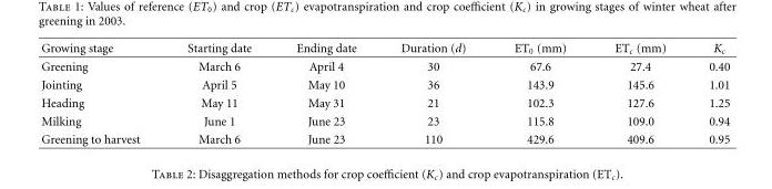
<table><thead><tr><td>Growing stage</td><td>Starting date</td><td>Ending date</td><td>Duration (d)</td><td>ET<sub>0</sub> (mm)</td><td>ET<sub>c</sub> (mm)</td><td>K<sub>c</sub></td></tr></thead><tbody><tr><td>Greening</td><td>March 6</td><td>April 4</td><td>30</td><td>67.6</td><td>27.4</td><td>0.40</td></tr><tr><td>Jointing</td><td>April 5</td><td>May 10</td><td>36</td><td>143.9</td><td>145.6</td><td>1.01</td></tr><tr><td>Heading</td><td>May 11</td><td>May 31</td><td>21</td><td>102.3</td><td>127.6</td><td>1.25</td></tr><tr><td>Milking</td><td>June 1</td><td>June 23</td><td>23</td><td>115.8</td><td>109.0</td><td>0.94</td></tr><tr><td>Greening to harvest</td><td>March 6</td><td>June 23</td><td>110</td><td>429.6</td><td>409.6</td><td>0.95</td></tr></tbody></table>